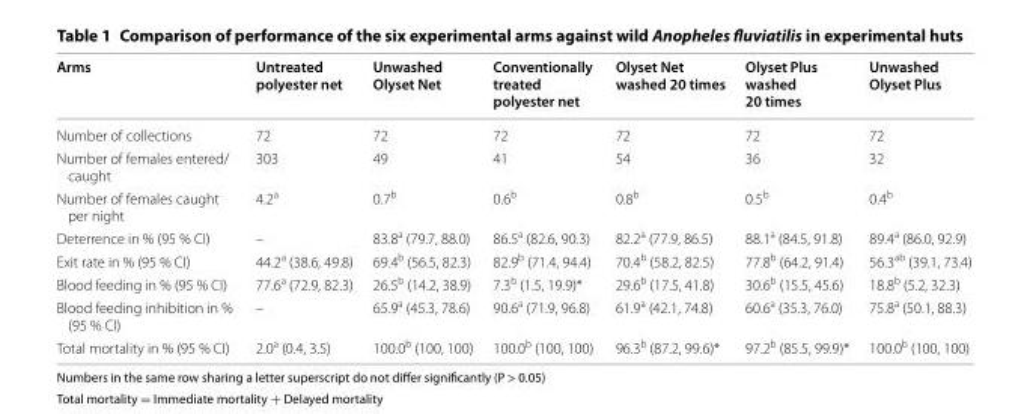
<table><thead><tr><td>Arms</td><td>Untreated polyester net</td><td>Unwashed Olyset Net</td><td>Conventionally treated polyester net</td><td>Olyset Net washed 20 times</td><td>Olyset Plus washed 20 times</td><td>Unwashed Olyset Plus</td></tr></thead><tbody><tr><td>Number of collections</td><td>72</td><td>72</td><td>72</td><td>72</td><td>72</td><td>72</td></tr><tr><td>Number of females entered/ caught</td><td>303</td><td>49</td><td>41</td><td>54</td><td>36</td><td>32</td></tr><tr><td>Number of females caught per night</td><td>4.2<sup>a</sup></td><td>0.7<sup>b</sup></td><td>0.6<sup>b</sup></td><td>0.8<sup>b</sup></td><td>0.5<sup>b</sup></td><td>0.4<sup>b</sup></td></tr><tr><td>Deterrence in % (95 % CI)</td><td>–</td><td>83.8<sup>a</sup> (79.7, 88.0)</td><td>86.5<sup>a</sup> (82.6, 90.3)</td><td>82.2<sup>a</sup> (77.9, 86.5)</td><td>88.1<sup>a</sup> (84.5, 91.8)</td><td>89.4<sup>a</sup> (86.0, 92.9)</td></tr><tr><td>Exit rate in % (95 % CI)</td><td>44.2<sup>a</sup> (38.6, 49.8)</td><td>69.4<sup>b</sup> (56.5, 82.3)</td><td>82.9<sup>b</sup> (71.4, 94.4)</td><td>70.4<sup>b</sup> (58.2, 82.5)</td><td>77.8<sup>b</sup> (64.2, 91.4)</td><td>56.3<sup>ab</sup> (39.1, 73.4)</td></tr><tr><td>Blood feeding in % (95 % CI)</td><td>77.6<sup>a</sup> (72.9, 82.3)</td><td>26.5<sup>b</sup> (14.2, 38.9)</td><td>7.3<sup>b</sup> (1.5, 19.9)*</td><td>29.6<sup>b</sup> (17.5, 41.8)</td><td>30.6<sup>b</sup> (15.5, 45.6)</td><td>18.8<sup>b</sup> (5.2, 32.3)</td></tr><tr><td>Blood feeding inhibition in % (95 % CI)</td><td>–</td><td>65.9<sup>a</sup> (45.3, 78.6)</td><td>90.6<sup>a</sup> (71.9, 96.8)</td><td>61.9<sup>a</sup> (42.1, 74.8)</td><td>60.6<sup>a</sup> (35.3, 76.0)</td><td>75.8<sup>a</sup> (50.1, 88.3)</td></tr><tr><td>Total mortality in % (95 % CI)</td><td>2.0<sup>a</sup> (0.4, 3.5)</td><td>100.0<sup>b</sup> (100, 100)</td><td>100.0<sup>b</sup> (100, 100)</td><td>96.3<sup>b</sup> (87.2, 99.6)*</td><td>97.2<sup>b</sup> (85.5, 99.9)*</td><td>100.0<sup>b</sup> (100, 100)</td></tr></tbody></table>